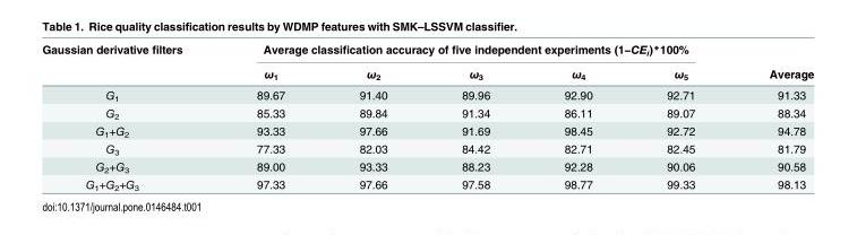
<table><thead><tr><td rowspan="2">Gaussian derivative filters</td><td colspan="5">Average classification accuracy of five independent experiments (1−CE<sub>i</sub>)*100%</td><td rowspan="2">Average</td></tr><tr><td>ω<sub>1</sub></td><td>ω<sub>2</sub></td><td>ω<sub>3</sub></td><td>ω<sub>4</sub></td><td>ω<sub>5</sub></td></tr></thead><tbody><tr><td>G<sub>1</sub></td><td>89.67</td><td>91.40</td><td>89.96</td><td>92.90</td><td>92.71</td><td>91.33</td></tr><tr><td>G<sub>2</sub></td><td>85.33</td><td>89.84</td><td>91.34</td><td>86.11</td><td>89.07</td><td>88.34</td></tr><tr><td>G<sub>1</sub>+G<sub>2</sub></td><td>93.33</td><td>97.66</td><td>91.69</td><td>98.45</td><td>92.72</td><td>94.78</td></tr><tr><td>G<sub>3</sub></td><td>77.33</td><td>82.03</td><td>84.42</td><td>82.71</td><td>82.45</td><td>81.79</td></tr><tr><td>G<sub>2</sub>+G<sub>3</sub></td><td>89.00</td><td>93.33</td><td>88.23</td><td>92.28</td><td>90.06</td><td>90.58</td></tr><tr><td>G<sub>1</sub>+G<sub>2</sub>+G<sub>3</sub></td><td>97.33</td><td>97.66</td><td>97.58</td><td>98.77</td><td>99.33</td><td>98.13</td></tr></tbody></table>